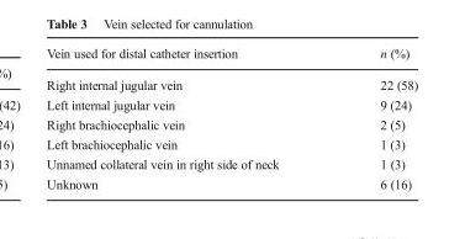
<table><thead><tr><td>Vein used for distal catheter insertion</td><td>n (%)</td></tr></thead><tbody><tr><td>Right internal jugular vein</td><td>22 (58)</td></tr><tr><td>Left internal jugular vein</td><td>9 (24)</td></tr><tr><td>Right brachiocephalic vein</td><td>2 (5)</td></tr><tr><td>Left brachiocephalic vein</td><td>1 (3)</td></tr><tr><td>Unnamed collateral vein in right side of neck</td><td>1 (3)</td></tr><tr><td>Unknown</td><td>6 (16)</td></tr></tbody></table>